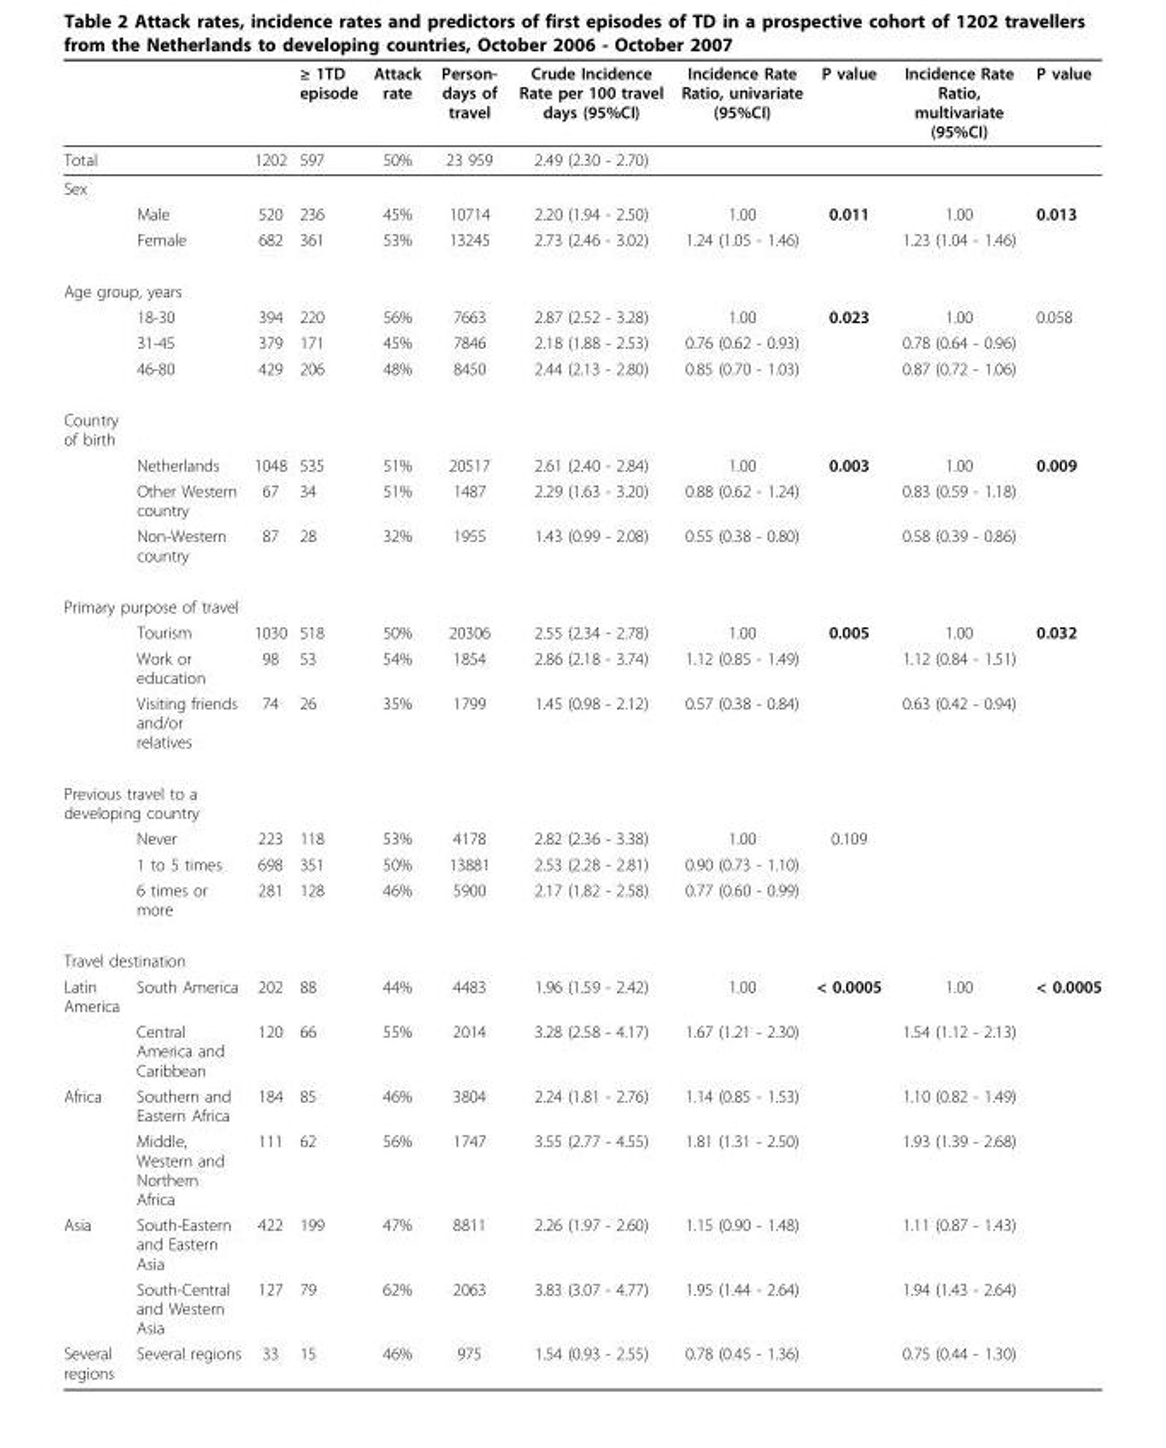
<table><thead><tr><td></td><td></td><td></td><td>≥ 1TD episode</td><td>Attack rate</td><td>Person- days of travel</td><td>Crude Incidence Rate per 100 travel days (95%CI)</td><td>Incidence Rate Ratio, univariate (95%CI)</td><td>P value</td><td>Incidence Rate Ratio, multivariate (95%CI)</td><td>P value</td></tr></thead><tbody><tr><td>Total</td><td></td><td>1202</td><td>597</td><td>50%</td><td>23 959</td><td>2.49 (2.30 - 2.70)</td><td></td><td></td><td></td><td></td></tr><tr><td colspan="11">Sex</td></tr><tr><td></td><td>Male</td><td>520</td><td>236</td><td>45%</td><td>10714</td><td>2.20 (1.94 - 2.50)</td><td>1.00</td><td>0.011</td><td>1.00</td><td>0.013</td></tr><tr><td></td><td>Female</td><td>682</td><td>361</td><td>53%</td><td>13245</td><td>2.73 (2.46 - 3.02)</td><td>1.24 (1.05 - 1.46)</td><td></td><td>1.23 (1.04 - 1.46)</td><td></td></tr><tr><td colspan="11">Age group, years</td></tr><tr><td></td><td>18-30</td><td>394</td><td>220</td><td>56%</td><td>7663</td><td>2.87 (2.52 - 3.28)</td><td>1.00</td><td>0.023</td><td>1.00</td><td>0.058</td></tr><tr><td></td><td>31-45</td><td>379</td><td>171</td><td>45%</td><td>7846</td><td>2.18 (1.88 - 2.53)</td><td>0.76 (0.62 - 0.93)</td><td></td><td>0.78 (0.64 - 0.96)</td><td></td></tr><tr><td></td><td>46-80</td><td>429</td><td>206</td><td>48%</td><td>8450</td><td>2.44 (2.13 - 2.80)</td><td>0.85 (0.70 - 1.03)</td><td></td><td>0.87 (0.72 - 1.06)</td><td></td></tr><tr><td colspan="11">Country of birth</td></tr><tr><td></td><td>Netherlands</td><td>1048</td><td>535</td><td>51%</td><td>20517</td><td>2.61 (2.40 - 2.84)</td><td>1.00</td><td>0.003</td><td>1.00</td><td>0.009</td></tr><tr><td></td><td>Other Western country</td><td>67</td><td>34</td><td>51%</td><td>1487</td><td>2.29 (1.63 - 3.20)</td><td>0.88 (0.62 - 1.24)</td><td></td><td>0.83 (0.59 - 1.18)</td><td></td></tr><tr><td></td><td>Non-Western country</td><td>87</td><td>28</td><td>32%</td><td>1955</td><td>1.43 (0.99 - 2.08)</td><td>0.55 (0.38 - 0.80)</td><td></td><td>0.58 (0.39 - 0.86)</td><td></td></tr><tr><td colspan="11">Primary purpose of travel</td></tr><tr><td></td><td>Tourism</td><td>1030</td><td>518</td><td>50%</td><td>20306</td><td>2.55 (2.34 - 2.78)</td><td>1.00</td><td>0.005</td><td>1.00</td><td>0.032</td></tr><tr><td></td><td>Work or education</td><td>98</td><td>53</td><td>54%</td><td>1854</td><td>2.86 (2.18 - 3.74)</td><td>1.12 (0.85 - 1.49)</td><td></td><td>1.12 (0.84 - 1.51)</td><td></td></tr><tr><td></td><td>Visiting friends and/or relatives</td><td>74</td><td>26</td><td>35%</td><td>1799</td><td>1.45 (0.98 - 2.12)</td><td>0.57 (0.38 - 0.84)</td><td></td><td>0.63 (0.42 - 0.94)</td><td></td></tr><tr><td colspan="11">Previous travel to a developing country</td></tr><tr><td></td><td>Never</td><td>223</td><td>118</td><td>53%</td><td>4178</td><td>2.82 (2.36 - 3.38)</td><td>1.00</td><td>0.109</td><td></td><td></td></tr><tr><td></td><td>1 to 5 times</td><td>698</td><td>351</td><td>50%</td><td>13881</td><td>2.53 (2.28 - 2.81)</td><td>0.90 (0.73 - 1.10)</td><td></td><td></td><td></td></tr><tr><td></td><td>6 times or more</td><td>281</td><td>128</td><td>46%</td><td>5900</td><td>2.17 (1.82 - 2.58)</td><td>0.77 (0.60 - 0.99)</td><td></td><td></td><td></td></tr><tr><td colspan="11">Travel destination</td></tr><tr><td rowspan="2">Latin America</td><td>South America</td><td>202</td><td>88</td><td>44%</td><td>4483</td><td>1.96 (1.59 - 2.42)</td><td>1.00</td><td>&lt; 0.0005</td><td>1.00</td><td>&lt; 0.0005</td></tr><tr><td>Central America and Caribbean</td><td>120</td><td>66</td><td>55%</td><td>2014</td><td>3.28 (2.58 - 4.17)</td><td>1.67 (1.21 - 2.30)</td><td></td><td>1.54 (1.12 - 2.13)</td><td></td></tr><tr><td rowspan="2">Africa</td><td>Southern and Eastern Africa</td><td>184</td><td>85</td><td>46%</td><td>3804</td><td>2.24 (1.81 - 2.76)</td><td>1.14 (0.85 - 1.53)</td><td></td><td>1.10 (0.82 - 1.49)</td><td></td></tr><tr><td>Middle, Western and Northern Africa</td><td>111</td><td>62</td><td>56%</td><td>1747</td><td>3.55 (2.77 - 4.55)</td><td>1.81 (1.31 - 2.50)</td><td></td><td>1.93 (1.39 - 2.68)</td><td></td></tr><tr><td rowspan="2">Asia</td><td>South-Eastern and Eastern Asia</td><td>422</td><td>199</td><td>47%</td><td>8811</td><td>2.26 (1.97 - 2.60)</td><td>1.15 (0.90 - 1.48)</td><td></td><td>1.11 (0.87 - 1.43)</td><td></td></tr><tr><td>South-Central and Western Asia</td><td>127</td><td>79</td><td>62%</td><td>2063</td><td>3.83 (3.07 - 4.77)</td><td>1.95 (1.44 - 2.64)</td><td></td><td>1.94 (1.43 - 2.64)</td><td></td></tr><tr><td>Several regions</td><td>Several regions</td><td>33</td><td>15</td><td>46%</td><td>975</td><td>1.54 (0.93 - 2.55)</td><td>0.78 (0.45 - 1.36)</td><td></td><td>0.75 (0.44 - 1.30)</td><td></td></tr></tbody></table>